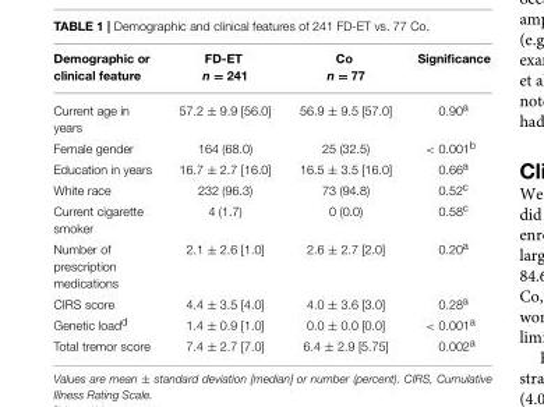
<table><thead><tr><td>Demographic or clinical feature</td><td>FD-ET n = 241</td><td>Co n = 77</td><td>Significance</td></tr></thead><tbody><tr><td>Current age in years</td><td>57.2 ± 9.9 [56.0]</td><td>56.9 ± 9.5 [57.0]</td><td>0.90<sup>a</sup></td></tr><tr><td>Female gender</td><td>164 (68.0)</td><td>25 (32.5)</td><td>&lt; 0.001<sup>b</sup></td></tr><tr><td>Education in years</td><td>16.7 ± 2.7 [16.0]</td><td>16.5 ± 3.5 [16.0]</td><td>0.66<sup>a</sup></td></tr><tr><td>White race</td><td>232 (96.3)</td><td>73 (94.8)</td><td>0.52<sup>c</sup></td></tr><tr><td>Current cigarette smoker</td><td>4 (1.7)</td><td>0 (0.0)</td><td>0.58<sup>c</sup></td></tr><tr><td>Number of prescription medications</td><td>2.1 ± 2.6 [1.0]</td><td>2.6 ± 2.7 [2.0]</td><td>0.20<sup>a</sup></td></tr><tr><td>CIRS score</td><td>4.4 ± 3.5 [4.0]</td><td>4.0 ± 3.6 [3.0]</td><td>0.28<sup>a</sup></td></tr><tr><td>Genetic load<sup>d</sup></td><td>1.4 ± 0.9 [1.0]</td><td>0.0 ± 0.0 [0.0]</td><td>&lt; 0.001<sup>a</sup></td></tr><tr><td>Total tremor score</td><td>7.4 ± 2.7 [7.0]</td><td>6.4 ± 2.9 [5.75]</td><td>0.002<sup>a</sup></td></tr></tbody></table>